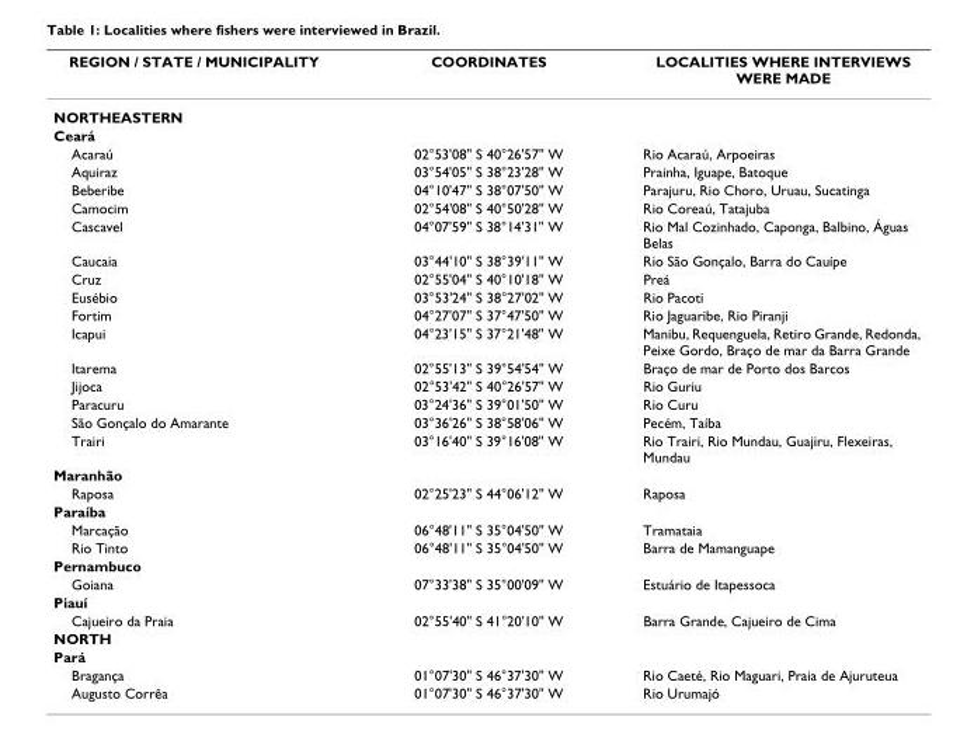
<table><thead><tr><td>REGION / STATE / MUNICIPALITY</td><td>COORDINATES</td><td>LOCALITIES WHERE INTERVIEWS WERE MADE</td></tr></thead><tbody><tr><td colspan="3">NORTHEASTERN</td></tr><tr><td colspan="3">Ceará</td></tr><tr><td>Acaraú</td><td>02°53&#x27;08&quot; S 40°26&#x27;57&quot; W</td><td>Rio Acaraú, Arpoeiras</td></tr><tr><td>Aquiraz</td><td>03°54&#x27;05&quot; S 38°23&#x27;28&quot; W</td><td>Prainha, Iguape, Batoque</td></tr><tr><td>Beberibe</td><td>04°10&#x27;47&quot; S 38°07&#x27;50&quot; W</td><td>Parajuru, Rio Choro, Uruau, Sucatinga</td></tr><tr><td>Camocim</td><td>02°54&#x27;08&quot; S 40°50&#x27;28&quot; W</td><td>Rio Coreaú, Tatajuba</td></tr><tr><td>Cascavel</td><td>04°07&#x27;59&quot; S 38°14&#x27;31&quot; W</td><td>Rio Mal Cozinhado, Caponga, Balbino, Águas Belas</td></tr><tr><td>Caucaia</td><td>03°44&#x27;10&quot; S 38°39&#x27;11&quot; W</td><td>Rio São Gonçalo, Barra do Cauípe</td></tr><tr><td>Cruz</td><td>02°55&#x27;04&quot; S 40°10&#x27;18&quot; W</td><td>Preá</td></tr><tr><td>Eusébio</td><td>03°53&#x27;24&quot; S 38°27&#x27;02&quot; W</td><td>Rio Pacoti</td></tr><tr><td>Fortim</td><td>04°27&#x27;07&quot; S 37°47&#x27;50&quot; W</td><td>Rio Jaguaribe, Rio Piranji</td></tr><tr><td>Icapui</td><td>04°23&#x27;15&quot; S 37°21&#x27;48&quot; W</td><td>Manibu, Requenguela, Retiro Grande, Redonda, Peixe Gordo, Braço de mar da Barra Grande</td></tr><tr><td>Itarema</td><td>02°55&#x27;13&quot; S 39°54&#x27;54&quot; W</td><td>Braço de mar de Porto dos Barcos</td></tr><tr><td>Jijoca</td><td>02°53&#x27;42&quot; S 40°26&#x27;57&quot; W</td><td>Rio Guriu</td></tr><tr><td>Paracuru</td><td>03°24&#x27;36&quot; S 39°01&#x27;50&quot; W</td><td>Rio Curu</td></tr><tr><td>São Gonçalo do Amarante</td><td>03°36&#x27;26&quot; S 38°58&#x27;06&quot; W</td><td>Pecém, Taíba</td></tr><tr><td>Trairi</td><td>03°16&#x27;40&quot; S 39°16&#x27;08&quot; W</td><td>Rio Trairi, Rio Mundau, Guajiru, Flexeiras, Mundau</td></tr><tr><td colspan="3">Maranhão</td></tr><tr><td>Raposa</td><td>02°25&#x27;23&quot; S 44°06&#x27;12&quot; W</td><td>Raposa</td></tr><tr><td colspan="3">Paraíba</td></tr><tr><td>Marcação</td><td>06°48&#x27;11&quot; S 35°04&#x27;50&quot; W</td><td>Tramataia</td></tr><tr><td>Rio Tinto</td><td>06°48&#x27;11&quot; S 35°04&#x27;50&quot; W</td><td>Barra de Mamanguape</td></tr><tr><td colspan="3">Pernambuco</td></tr><tr><td>Goiana</td><td>07°33&#x27;38&quot; S 35°00&#x27;09&quot; W</td><td>Estuário de Itapessoca</td></tr><tr><td colspan="3">Piauí</td></tr><tr><td>Cajueiro da Praia</td><td>02°55&#x27;40&quot; S 41°20&#x27;10&quot; W</td><td>Barra Grande, Cajueiro de Cima</td></tr><tr><td colspan="3">NORTH</td></tr><tr><td colspan="3">Pará</td></tr><tr><td>Bragança</td><td>01°07&#x27;30&quot; S 46°37&#x27;30&quot; W</td><td>Rio Caeté, Rio Maguari, Praia de Ajuruteua</td></tr><tr><td>Augusto Corrêa</td><td>01°07&#x27;30&quot; S 46°37&#x27;30&quot; W</td><td>Rio Urumajó</td></tr></tbody></table>